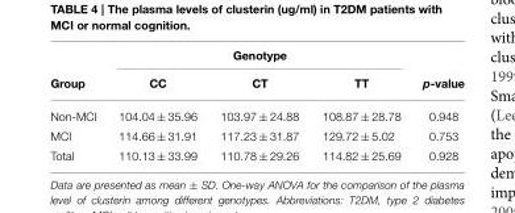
<table><thead><tr><td rowspan="2">Group</td><td colspan="3">Genotype</td><td rowspan="2">p-value</td></tr><tr><td>CC</td><td>CT</td><td>TT</td></tr></thead><tbody><tr><td>Non-MCI</td><td>104.04 ± 35.96</td><td>103.97 ± 24.88</td><td>108.87 ± 28.78</td><td>0.948</td></tr><tr><td>MCI</td><td>114.66 ± 31.91</td><td>117.23 ± 31.87</td><td>129.72 ± 5.02</td><td>0.753</td></tr><tr><td>Total</td><td>110.13 ± 33.99</td><td>110.78 ± 29.26</td><td>114.82 ± 25.69</td><td>0.928</td></tr></tbody></table>